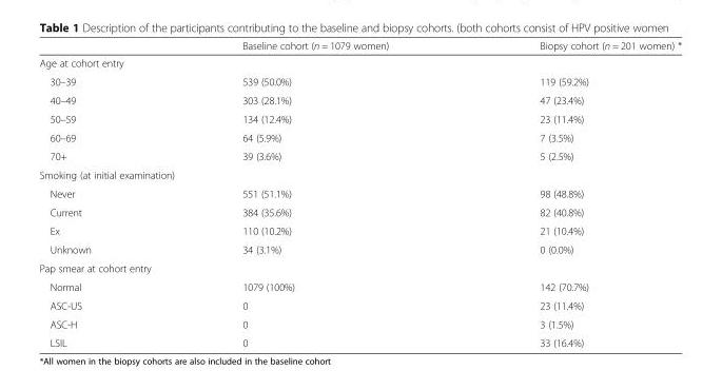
<table><thead><tr><td></td><td>Baseline cohort (n = 1079 women)</td><td>Biopsy cohort (n = 201 women) *</td></tr></thead><tbody><tr><td colspan="3">Age at cohort entry</td></tr><tr><td>30–39</td><td>539 (50.0%)</td><td>119 (59.2%)</td></tr><tr><td>40–49</td><td>303 (28.1%)</td><td>47 (23.4%)</td></tr><tr><td>50–59</td><td>134 (12.4%)</td><td>23 (11.4%)</td></tr><tr><td>60–69</td><td>64 (5.9%)</td><td>7 (3.5%)</td></tr><tr><td>70+</td><td>39 (3.6%)</td><td>5 (2.5%)</td></tr><tr><td colspan="3">Smoking (at initial examination)</td></tr><tr><td>Never</td><td>551 (51.1%)</td><td>98 (48.8%)</td></tr><tr><td>Current</td><td>384 (35.6%)</td><td>82 (40.8%)</td></tr><tr><td>Ex</td><td>110 (10.2%)</td><td>21 (10.4%)</td></tr><tr><td>Unknown</td><td>34 (3.1%)</td><td>0 (0.0%)</td></tr><tr><td colspan="3">Pap smear at cohort entry</td></tr><tr><td>Normal</td><td>1079 (100%)</td><td>142 (70.7%)</td></tr><tr><td>ASC-US</td><td>0</td><td>23 (11.4%)</td></tr><tr><td>ASC-H</td><td>0</td><td>3 (1.5%)</td></tr><tr><td>LSIL</td><td>0</td><td>33 (16.4%)</td></tr></tbody></table>